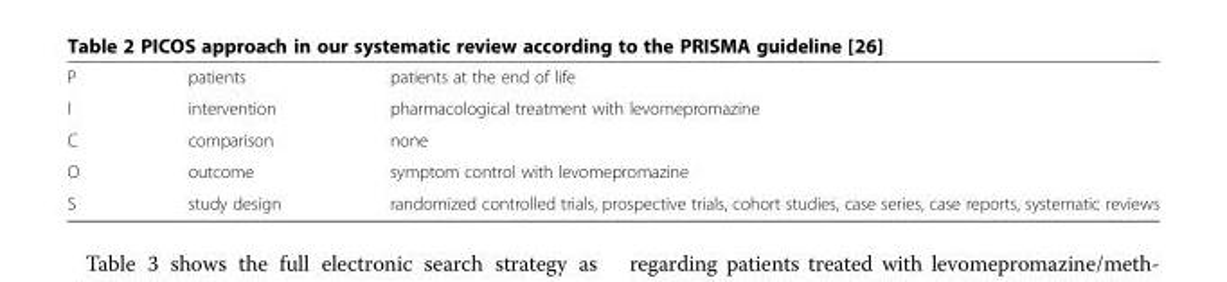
<table><tbody><tr><td>P</td><td>patients</td><td>patients at the end of life</td></tr><tr><td>I</td><td>intervention</td><td>pharmacological treatment with levomepromazine</td></tr><tr><td>C</td><td>comparison</td><td>none</td></tr><tr><td>O</td><td>outcome</td><td>symptom control with levomepromazine</td></tr><tr><td>S</td><td>study design</td><td>randomized controlled trials, prospective trials, cohort studies, case series, case reports, systematic reviews</td></tr></tbody></table>